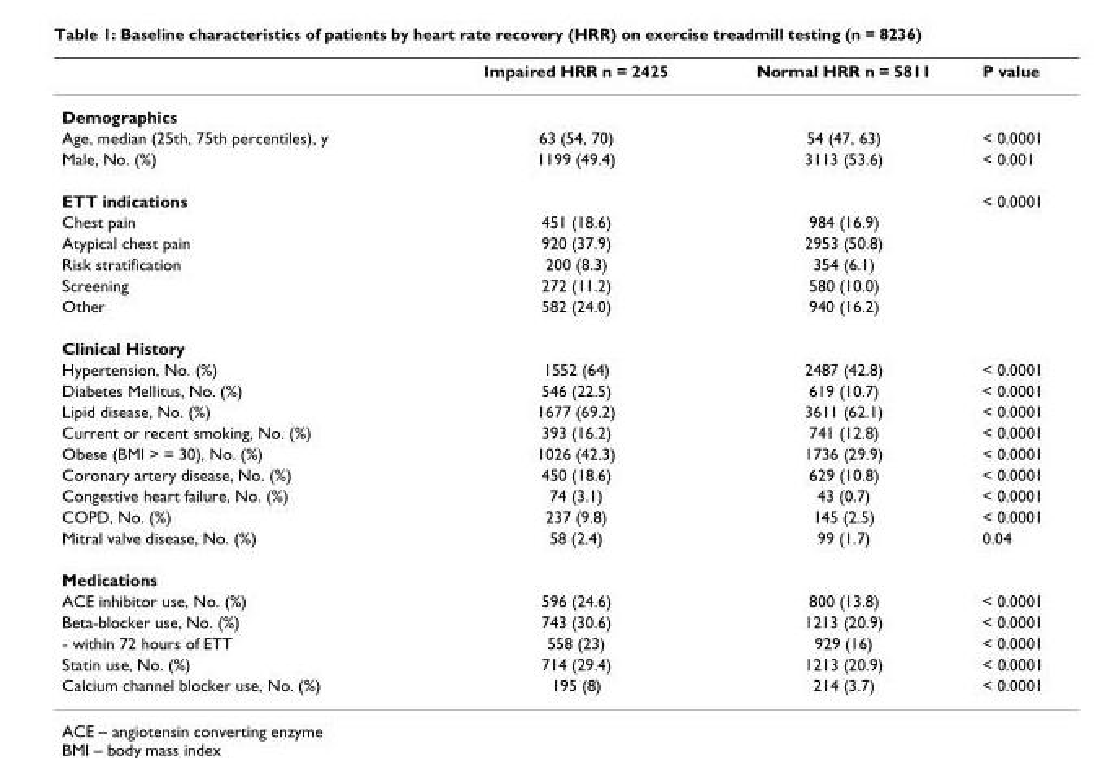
<table><thead><tr><td></td><td>Impaired HRR n = 2425</td><td>Normal HRR n = 5811</td><td>P value</td></tr></thead><tbody><tr><td colspan="4">Demographics</td></tr><tr><td>Age, median (25th, 75th percentiles), y</td><td>63 (54, 70)</td><td>54 (47, 63)</td><td>&lt; 0.0001</td></tr><tr><td>Male, No. (%)</td><td>1199 (49.4)</td><td>3113 (53.6)</td><td>&lt; 0.001</td></tr><tr><td>ETT indications</td><td></td><td></td><td>&lt; 0.0001</td></tr><tr><td>Chest pain</td><td>451 (18.6)</td><td>984 (16.9)</td><td></td></tr><tr><td>Atypical chest pain</td><td>920 (37.9)</td><td>2953 (50.8)</td><td></td></tr><tr><td>Risk stratification</td><td>200 (8.3)</td><td>354 (6.1)</td><td></td></tr><tr><td>Screening</td><td>272 (11.2)</td><td>580 (10.0)</td><td></td></tr><tr><td>Other</td><td>582 (24.0)</td><td>940 (16.2)</td><td></td></tr><tr><td colspan="4">Clinical History</td></tr><tr><td>Hypertension, No. (%)</td><td>1552 (64)</td><td>2487 (42.8)</td><td>&lt; 0.0001</td></tr><tr><td>Diabetes Mellitus, No. (%)</td><td>546 (22.5)</td><td>619 (10.7)</td><td>&lt; 0.0001</td></tr><tr><td>Lipid disease, No. (%)</td><td>1677 (69.2)</td><td>3611 (62.1)</td><td>&lt; 0.0001</td></tr><tr><td>Current or recent smoking, No. (%)</td><td>393 (16.2)</td><td>741 (12.8)</td><td>&lt; 0.0001</td></tr><tr><td>Obese (BMI &gt; = 30), No. (%)</td><td>1026 (42.3)</td><td>1736 (29.9)</td><td>&lt; 0.0001</td></tr><tr><td>Coronary artery disease, No. (%)</td><td>450 (18.6)</td><td>629 (10.8)</td><td>&lt; 0.0001</td></tr><tr><td>Congestive heart failure, No. (%)</td><td>74 (3.1)</td><td>43 (0.7)</td><td>&lt; 0.0001</td></tr><tr><td>COPD, No. (%)</td><td>237 (9.8)</td><td>145 (2.5)</td><td>&lt; 0.0001</td></tr><tr><td>Mitral valve disease, No. (%)</td><td>58 (2.4)</td><td>99 (1.7)</td><td>0.04</td></tr><tr><td colspan="4">Medications</td></tr><tr><td>ACE inhibitor use, No. (%)</td><td>596 (24.6)</td><td>800 (13.8)</td><td>&lt; 0.0001</td></tr><tr><td>Beta-blocker use, No. (%)</td><td>743 (30.6)</td><td>1213 (20.9)</td><td>&lt; 0.0001</td></tr><tr><td>- within 72 hours of ETT</td><td>558 (23)</td><td>929 (16)</td><td>&lt; 0.0001</td></tr><tr><td>Statin use, No. (%)</td><td>714 (29.4)</td><td>1213 (20.9)</td><td>&lt; 0.0001</td></tr><tr><td>Calcium channel blocker use, No. (%)</td><td>195 (8)</td><td>214 (3.7)</td><td>&lt; 0.0001</td></tr></tbody></table>